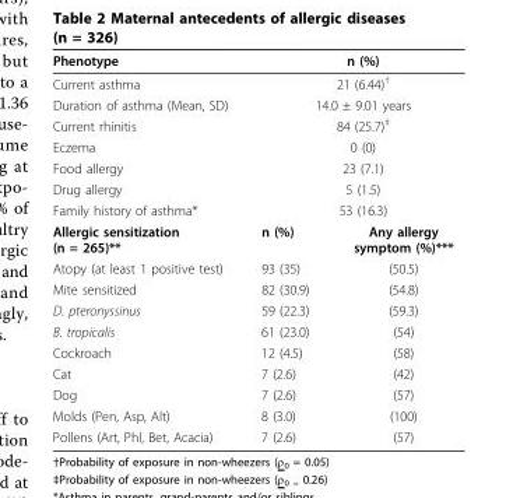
<table><thead><tr><td>Phenotype</td><td colspan="2">n (%)</td></tr></thead><tbody><tr><td>Current asthma</td><td colspan="2">21 (6.44)<sup>†</sup></td></tr><tr><td>Duration of asthma (Mean, SD)</td><td colspan="2">14.0 ± 9.01 years</td></tr><tr><td>Current rhinitis</td><td colspan="2">84 (25.7)<sup>‡</sup></td></tr><tr><td>Eczema</td><td colspan="2">0 (0)</td></tr><tr><td>Food allergy</td><td colspan="2">23 (7.1)</td></tr><tr><td>Drug allergy</td><td colspan="2">5 (1.5)</td></tr><tr><td>Family history of asthma*</td><td colspan="2">53 (16.3)</td></tr><tr><td>Allergic sensitization (n = 265)**</td><td>n (%)</td><td>Any allergy symptom (%)***</td></tr><tr><td>Atopy (at least 1 positive test)</td><td>93 (35)</td><td>(50.5)</td></tr><tr><td>Mite sensitized</td><td>82 (30.9)</td><td>(54.8)</td></tr><tr><td>D. pteronyssinus</td><td>59 (22.3)</td><td>(59.3)</td></tr><tr><td>B. tropicalis</td><td>61 (23.0)</td><td>(54)</td></tr><tr><td>Cockroach</td><td>12 (4.5)</td><td>(58)</td></tr><tr><td>Cat</td><td>7 (2.6)</td><td>(42)</td></tr><tr><td>Dog</td><td>7 (2.6)</td><td>(57)</td></tr><tr><td>Molds (Pen, Asp, Alt)</td><td>8 (3.0)</td><td>(100)</td></tr><tr><td>Pollens (Art, Phl, Bet, Acacia)</td><td>7 (2.6)</td><td>(57)</td></tr></tbody></table>